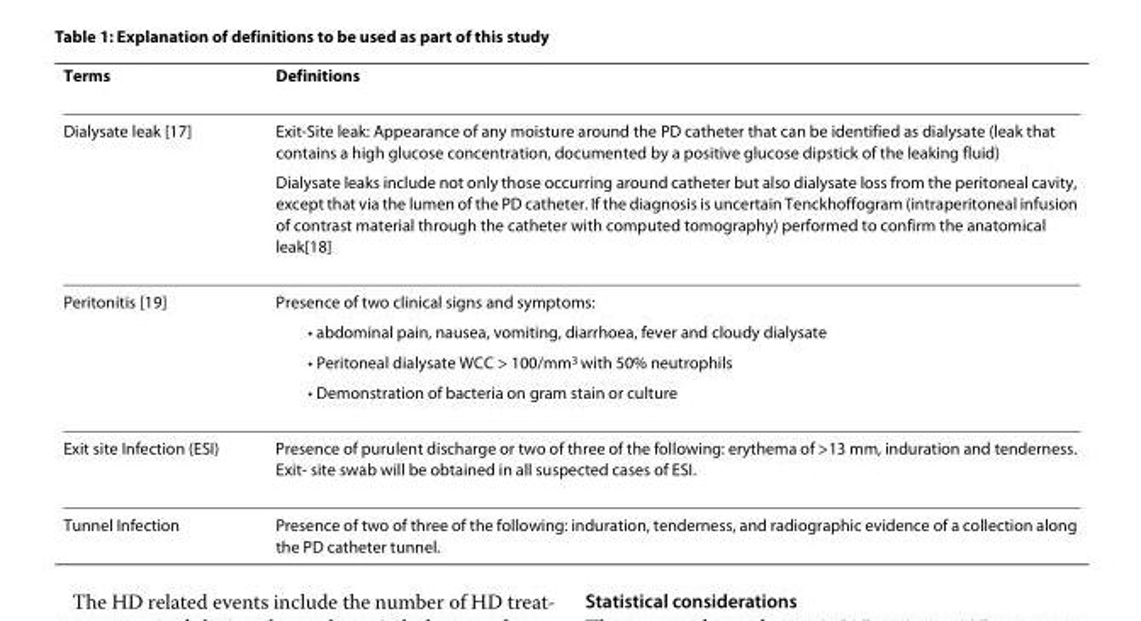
<table><thead><tr><td>Terms</td><td>Definitions</td></tr></thead><tbody><tr><td rowspan="2">Dialysate leak [17]</td><td>Exit-Site leak: Appearance of any moisture around the PD catheter that can be identified as dialysate (leak that contains a high glucose concentration, documented by a positive glucose dipstick of the leaking fluid)</td></tr><tr><td>Dialysate leaks include not only those occurring around catheter but also dialysate loss from the peritoneal cavity, except that via the lumen of the PD catheter. If the diagnosis is uncertain Tenckhoffogram (intraperitoneal infusion of contrast material through the catheter with computed tomography) performed to confirm the anatomical leak[18]</td></tr><tr><td rowspan="4">Peritonitis [19]</td><td>Presence of two clinical signs and symptoms:</td></tr><tr><td>• abdominal pain, nausea, vomiting, diarrhoea, fever and cloudy dialysate</td></tr><tr><td>• Peritoneal dialysate WCC &gt; 100/mm<sup>3</sup> with 50% neutrophils</td></tr><tr><td>• Demonstration of bacteria on gram stain or culture</td></tr><tr><td>Exit site Infection (ESI)</td><td>Presence of purulent discharge or two of three of the following: erythema of &gt;13 mm, induration and tenderness. Exit- site swab will be obtained in all suspected cases of ESI.</td></tr><tr><td>Tunnel Infection</td><td>Presence of two of three of the following: induration, tenderness, and radiographic evidence of a collection along the PD catheter tunnel.</td></tr></tbody></table>